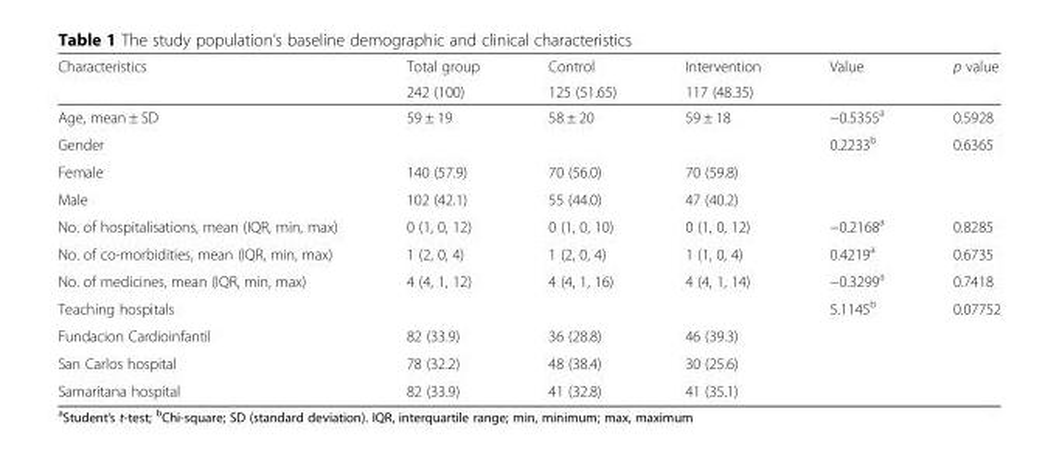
<table><thead><tr><td rowspan="2">Characteristics</td><td rowspan="2">Total group 242 (100)</td><td rowspan="2">Control 125 (51.65)</td><td rowspan="2">Intervention 117 (48.35)</td><td rowspan="2">Value</td><td rowspan="2">p value</td></tr><tr></tr></thead><tbody><tr><td>Age, mean ± SD</td><td>59 ± 19</td><td>58 ± 20</td><td>59 ± 18</td><td>−0.5355<sup>a</sup></td><td>0.5928</td></tr><tr><td>Gender</td><td></td><td></td><td></td><td>0.2233<sup>b</sup></td><td>0.6365</td></tr><tr><td>Female</td><td>140 (57.9)</td><td>70 (56.0)</td><td>70 (59.8)</td><td></td><td></td></tr><tr><td>Male</td><td>102 (42.1)</td><td>55 (44.0)</td><td>47 (40.2)</td><td></td><td></td></tr><tr><td>No. of hospitalisations, mean (IQR, min, max)</td><td>0 (1, 0, 12)</td><td>0 (1, 0, 10)</td><td>0 (1, 0, 12)</td><td>−0.2168<sup>a</sup></td><td>0.8285</td></tr><tr><td>No. of co-morbidities, mean (IQR, min, max)</td><td>1 (2, 0, 4)</td><td>1 (2, 0, 4)</td><td>1 (1, 0, 4)</td><td>0.4219<sup>a</sup></td><td>0.6735</td></tr><tr><td>No. of medicines, mean (IQR, min, max)</td><td>4 (4, 1, 12)</td><td>4 (4, 1, 16)</td><td>4 (4, 1, 14)</td><td>−0.3299<sup>a</sup></td><td>0.7418</td></tr><tr><td>Teaching hospitals</td><td></td><td></td><td></td><td>5.1145<sup>b</sup></td><td>0.07752</td></tr><tr><td>Fundacion Cardioinfantil</td><td>82 (33.9)</td><td>36 (28.8)</td><td>46 (39.3)</td><td></td><td></td></tr><tr><td>San Carlos hospital</td><td>78 (32.2)</td><td>48 (38.4)</td><td>30 (25.6)</td><td></td><td></td></tr><tr><td>Samaritana hospital</td><td>82 (33.9)</td><td>41 (32.8)</td><td>41 (35.1)</td><td></td><td></td></tr></tbody></table>